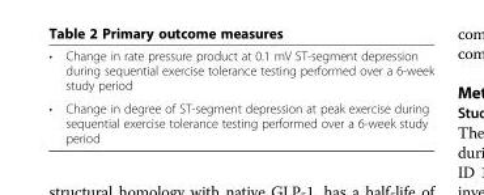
<table><tbody><tr><td>•</td><td>Change in rate pressure product at 0.1 mV ST-segment depression during sequential exercise tolerance testing performed over a 6-week study period</td></tr><tr><td>•</td><td>Change in degree of ST-segment depression at peak exercise during sequential exercise tolerance testing performed over a 6-week study period</td></tr></tbody></table>